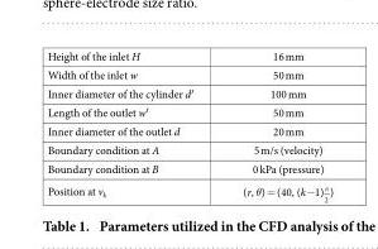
<table><tbody><tr><td>Height of the inlet H</td><td>16 mm</td></tr><tr><td>Width of the inlet w</td><td>50 mm</td></tr><tr><td>Inner diameter of the cylinder d′</td><td>100 mm</td></tr><tr><td>Length of the outlet w′</td><td>50 mm</td></tr><tr><td>Inner diameter of the outlet d</td><td>20 mm</td></tr><tr><td>Boundary condition at A</td><td>5 m/s (velocity)</td></tr><tr><td>Boundary condition at B</td><td>0 kPa (pressure)</td></tr><tr><td>Position at v<sub>k</sub></td><td>(r, θ) = (40, (k−1)π</td></tr></tbody></table>